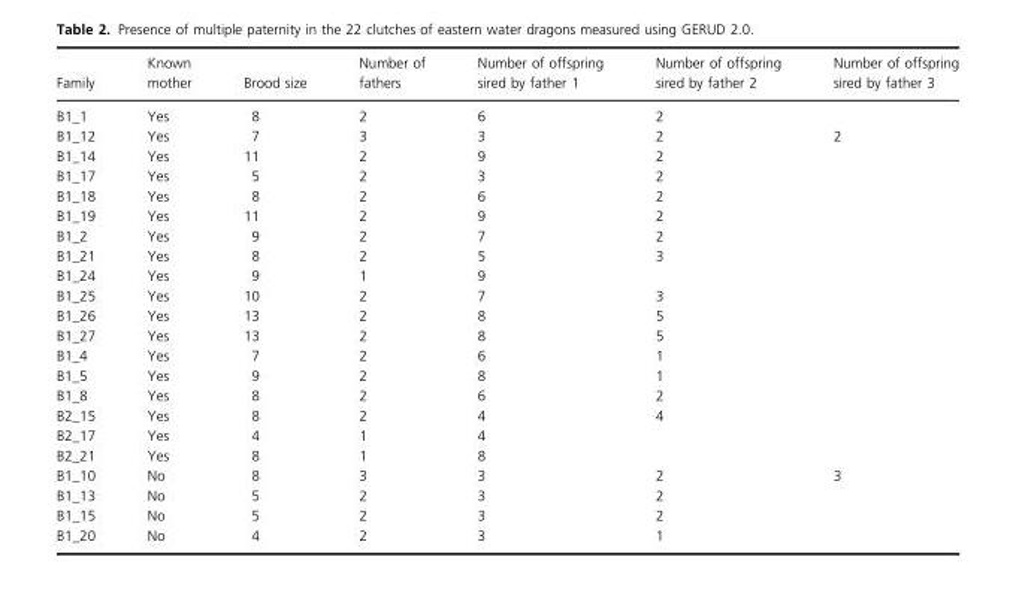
<table><thead><tr><td>Family</td><td>Known mother</td><td>Brood size</td><td>Number of fathers</td><td>Number of offspring sired by father 1</td><td>Number of offspring sired by father 2</td><td>Number of offspring sired by father 3</td></tr></thead><tbody><tr><td>B1_1</td><td>Yes</td><td>8</td><td>2</td><td>6</td><td>2</td><td></td></tr><tr><td>B1_12</td><td>Yes</td><td>7</td><td>3</td><td>3</td><td>2</td><td>2</td></tr><tr><td>B1_14</td><td>Yes</td><td>11</td><td>2</td><td>9</td><td>2</td><td></td></tr><tr><td>B1_17</td><td>Yes</td><td>5</td><td>2</td><td>3</td><td>2</td><td></td></tr><tr><td>B1_18</td><td>Yes</td><td>8</td><td>2</td><td>6</td><td>2</td><td></td></tr><tr><td>B1_19</td><td>Yes</td><td>11</td><td>2</td><td>9</td><td>2</td><td></td></tr><tr><td>B1_2</td><td>Yes</td><td>9</td><td>2</td><td>7</td><td>2</td><td></td></tr><tr><td>B1_21</td><td>Yes</td><td>8</td><td>2</td><td>5</td><td>3</td><td></td></tr><tr><td>B1_24</td><td>Yes</td><td>9</td><td>1</td><td>9</td><td></td><td></td></tr><tr><td>B1_25</td><td>Yes</td><td>10</td><td>2</td><td>7</td><td>3</td><td></td></tr><tr><td>B1_26</td><td>Yes</td><td>13</td><td>2</td><td>8</td><td>5</td><td></td></tr><tr><td>B1_27</td><td>Yes</td><td>13</td><td>2</td><td>8</td><td>5</td><td></td></tr><tr><td>B1_4</td><td>Yes</td><td>7</td><td>2</td><td>6</td><td>1</td><td></td></tr><tr><td>B1_5</td><td>Yes</td><td>9</td><td>2</td><td>8</td><td>1</td><td></td></tr><tr><td>B1_8</td><td>Yes</td><td>8</td><td>2</td><td>6</td><td>2</td><td></td></tr><tr><td>B2_15</td><td>Yes</td><td>8</td><td>2</td><td>4</td><td>4</td><td></td></tr><tr><td>B2_17</td><td>Yes</td><td>4</td><td>1</td><td>4</td><td></td><td></td></tr><tr><td>B2_21</td><td>Yes</td><td>8</td><td>1</td><td>8</td><td></td><td></td></tr><tr><td>B1_10</td><td>No</td><td>8</td><td>3</td><td>3</td><td>2</td><td>3</td></tr><tr><td>B1_13</td><td>No</td><td>5</td><td>2</td><td>3</td><td>2</td><td></td></tr><tr><td>B1_15</td><td>No</td><td>5</td><td>2</td><td>3</td><td>2</td><td></td></tr><tr><td>B1_20</td><td>No</td><td>4</td><td>2</td><td>3</td><td>1</td><td></td></tr></tbody></table>